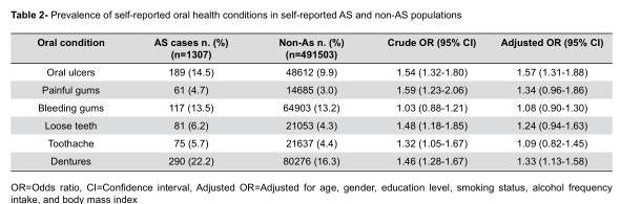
<table><thead><tr><td>Oral condition</td><td>AS cases n. (%) (n=1307)</td><td>Non-As n. (%) (n=491503)</td><td>Crude OR (95% CI)</td><td>Adjusted OR (95% CI)</td></tr></thead><tbody><tr><td>Oral ulcers</td><td>189 (14.5)</td><td>48612 (9.9)</td><td>1.54 (1.32-1.80)</td><td>1.57 (1.31-1.88)</td></tr><tr><td>Painful gums</td><td>61 (4.7)</td><td>14685 (3.0)</td><td>1.59 (1.23-2.06)</td><td>1.34 (0.96-1.86)</td></tr><tr><td>Bleeding gums</td><td>117 (13.5)</td><td>64903 (13.2)</td><td>1.03 (0.88-1.21)</td><td>1.08 (0.90-1.30)</td></tr><tr><td>Loose teeth</td><td>81 (6.2)</td><td>21053 (4.3)</td><td>1.48 (1.18-1.85)</td><td>1.24 (0.94-1.63)</td></tr><tr><td>Toothache</td><td>75 (5.7)</td><td>21637 (4.4)</td><td>1.32 (1.05-1.67)</td><td>1.09 (0.82-1.45)</td></tr><tr><td>Dentures</td><td>290 (22.2)</td><td>80276 (16.3)</td><td>1.46 (1.28-1.67)</td><td>1.33 (1.13-1.58)</td></tr></tbody></table>